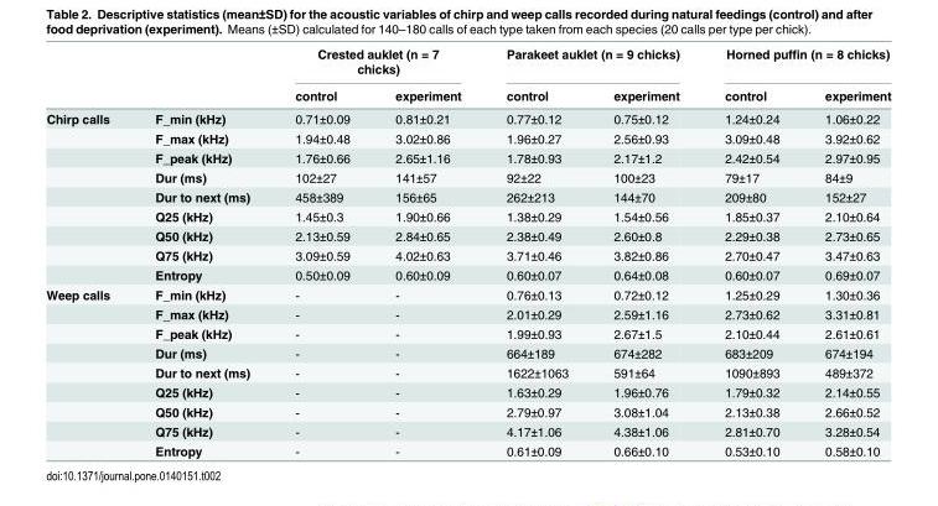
<table><thead><tr><td rowspan="2"></td><td rowspan="2"></td><td colspan="2">Crested auklet (n = 7 chicks)</td><td colspan="2">Parakeet auklet (n = 9 chicks)</td><td colspan="2">Horned puffin (n = 8 chicks)</td></tr><tr><td>control</td><td>experiment</td><td>control</td><td>experiment</td><td>control</td><td>experiment</td></tr></thead><tbody><tr><td rowspan="9">Chirp calls</td><td>F_min (kHz)</td><td>0.71±0.09</td><td>0.81±0.21</td><td>0.77±0.12</td><td>0.75±0.12</td><td>1.24±0.24</td><td>1.06±0.22</td></tr><tr><td>F_max (kHz)</td><td>1.94±0.48</td><td>3.02±0.86</td><td>1.96±0.27</td><td>2.56±0.93</td><td>3.09±0.48</td><td>3.92±0.62</td></tr><tr><td>F_peak (kHz)</td><td>1.76±0.66</td><td>2.65±1.16</td><td>1.78±0.93</td><td>2.17±1.2</td><td>2.42±0.54</td><td>2.97±0.95</td></tr><tr><td>Dur (ms)</td><td>102±27</td><td>141±57</td><td>92±22</td><td>100±23</td><td>79±17</td><td>84±9</td></tr><tr><td>Dur to next (ms)</td><td>458±389</td><td>156±65</td><td>262±213</td><td>144±70</td><td>209±80</td><td>152±27</td></tr><tr><td>Q25 (kHz)</td><td>1.45±0.3</td><td>1.90±0.66</td><td>1.38±0.29</td><td>1.54±0.56</td><td>1.85±0.37</td><td>2.10±0.64</td></tr><tr><td>Q50 (kHz)</td><td>2.13±0.59</td><td>2.84±0.65</td><td>2.38±0.49</td><td>2.60±0.8</td><td>2.29±0.38</td><td>2.73±0.65</td></tr><tr><td>Q75 (kHz)</td><td>3.09±0.59</td><td>4.02±0.63</td><td>3.71±0.46</td><td>3.82±0.86</td><td>2.70±0.47</td><td>3.47±0.63</td></tr><tr><td>Entropy</td><td>0.50±0.09</td><td>0.60±0.09</td><td>0.60±0.07</td><td>0.64±0.08</td><td>0.60±0.07</td><td>0.69±0.07</td></tr><tr><td rowspan="9">Weep calls</td><td>F_min (kHz)</td><td>-</td><td>-</td><td>0.76±0.13</td><td>0.72±0.12</td><td>1.25±0.29</td><td>1.30±0.36</td></tr><tr><td>F_max (kHz)</td><td>-</td><td>-</td><td>2.01±0.29</td><td>2.59±1.16</td><td>2.73±0.62</td><td>3.31±0.81</td></tr><tr><td>F_peak (kHz)</td><td>-</td><td>-</td><td>1.99±0.93</td><td>2.67±1.5</td><td>2.10±0.44</td><td>2.61±0.61</td></tr><tr><td>Dur (ms)</td><td>-</td><td>-</td><td>664±189</td><td>674±282</td><td>683±209</td><td>674±194</td></tr><tr><td>Dur to next (ms)</td><td>-</td><td>-</td><td>1622±1063</td><td>591±64</td><td>1090±893</td><td>489±372</td></tr><tr><td>Q25 (kHz)</td><td>-</td><td>-</td><td>1.63±0.29</td><td>1.96±0.76</td><td>1.79±0.32</td><td>2.14±0.55</td></tr><tr><td>Q50 (kHz)</td><td>-</td><td>-</td><td>2.79±0.97</td><td>3.08±1.04</td><td>2.13±0.38</td><td>2.66±0.52</td></tr><tr><td>Q75 (kHz)</td><td>-</td><td>-</td><td>4.17±1.06</td><td>4.38±1.06</td><td>2.81±0.70</td><td>3.28±0.54</td></tr><tr><td>Entropy</td><td>-</td><td>-</td><td>0.61±0.09</td><td>0.66±0.10</td><td>0.53±0.10</td><td>0.58±0.10</td></tr></tbody></table>